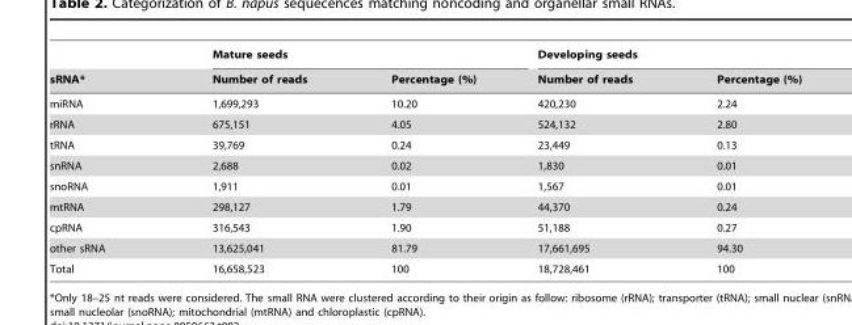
<table><thead><tr><td rowspan="2">sRNA*</td><td colspan="2">Mature seeds</td><td colspan="2">Developing seeds</td></tr><tr><td>Number of reads</td><td>Percentage (%)</td><td>Number of reads</td><td>Percentage (%)</td></tr></thead><tbody><tr><td>miRNA</td><td>1,699,293</td><td>10.20</td><td>420,230</td><td>2.24</td></tr><tr><td>rRNA</td><td>675,151</td><td>4.05</td><td>524,132</td><td>2.80</td></tr><tr><td>tRNA</td><td>39,769</td><td>0.24</td><td>23,449</td><td>0.13</td></tr><tr><td>snRNA</td><td>2,688</td><td>0.02</td><td>1,830</td><td>0.01</td></tr><tr><td>snoRNA</td><td>1,911</td><td>0.01</td><td>1,567</td><td>0.01</td></tr><tr><td>mtRNA</td><td>298,127</td><td>1.79</td><td>44,370</td><td>0.24</td></tr><tr><td>cpRNA</td><td>316,543</td><td>1.90</td><td>51,188</td><td>0.27</td></tr><tr><td>other sRNA</td><td>13,625,041</td><td>81.79</td><td>17,661,695</td><td>94.30</td></tr><tr><td>Total</td><td>16,658,523</td><td>100</td><td>18,728,461</td><td>100</td></tr></tbody></table>